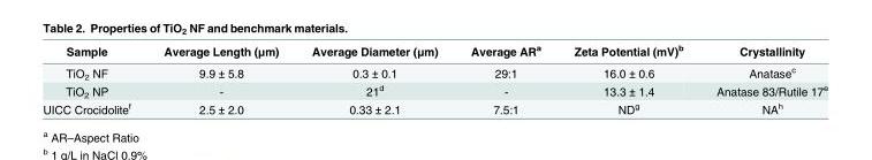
<table><thead><tr><td>Sample</td><td>Average Length (μm)</td><td>Average Diameter (μm)</td><td>Average AR<sup>a</sup></td><td>Zeta Potential (mV)<sup>b</sup></td><td>Crystallinity</td></tr></thead><tbody><tr><td>TiO<sub>2</sub> NF</td><td>9.9 ± 5.8</td><td>0.3 ± 0.1</td><td>29:1</td><td>16.0 ± 0.6</td><td>Anatase<sup>c</sup></td></tr><tr><td>TiO<sub>2</sub> NP</td><td>-</td><td>21<sup>d</sup></td><td>-</td><td>13.3 ± 1.4</td><td>Anatase 83/Rutile 17<sup>e</sup></td></tr><tr><td>UICC Crocidolite<sup>f</sup></td><td>2.5 ± 2.0</td><td>0.33 ± 2.1</td><td>7.5:1</td><td>ND<sup>g</sup></td><td>NA<sup>h</sup></td></tr></tbody></table>